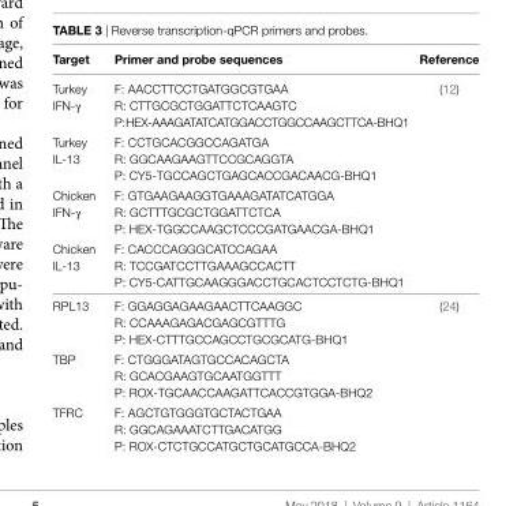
<table><thead><tr><td>Target</td><td>Primer and probe sequences</td><td>reference</td></tr></thead><tbody><tr><td>Turkey IFN-γ</td><td>F: AACCTTCCTGATGGCGTGAA R: CTTGCGCTGGATTCTCAAGTC P: HEX-AAAGATATCATGGACCTGGCCAAGCTTCA-BHQ1</td><td rowspan="4">(12)</td></tr><tr><td>Turkey IL-13</td><td>F: CCTGCACGGCCAGATGA R: GGCAAGAAGTTCCGCAGGTA P: CY5-TGCCAGCTGAGCACCGACAACG-BHQ1</td></tr><tr><td>Chicken IFN-γ</td><td>F: GTGAAGAAGGTGAAAGATATCATGGA R: GCTTTGCGCTGGATTCTCA P: HEX-TGGCCAAGCTCCCGATGAACGA-BHQ1</td></tr><tr><td>Chicken IL-13</td><td>F: CACCCAGGGCATCCAGAA R: TCCGATCCTTGAAAGCCACTT P: CY5-CATTGCAAGGGACCTGCACTCCTCTG-BHQ1</td></tr><tr><td>RPL13</td><td>F: GGAGGAGAAGAACTTCAAGGC R: CCAAAGAGACGAGCGTTTG P: HEX-CTTTGCCAGCCTGCGCATG-BHQ1</td><td rowspan="3">(24)</td></tr><tr><td>TBP</td><td>F: CTGGGATAGTGCCACAGCTA R: GCACGAAGTGCAATGGTTT P: ROX-TGCAACCAAGATTCACCGTGGA-BHQ2</td></tr><tr><td>TFRC</td><td>F: AGCTGTGGGTGCTACTGAA R: GGCAGAAATCTTGACATGG P: ROX-CTCTGCCATGCTGCATGCCA-BHQ2</td></tr></tbody></table>